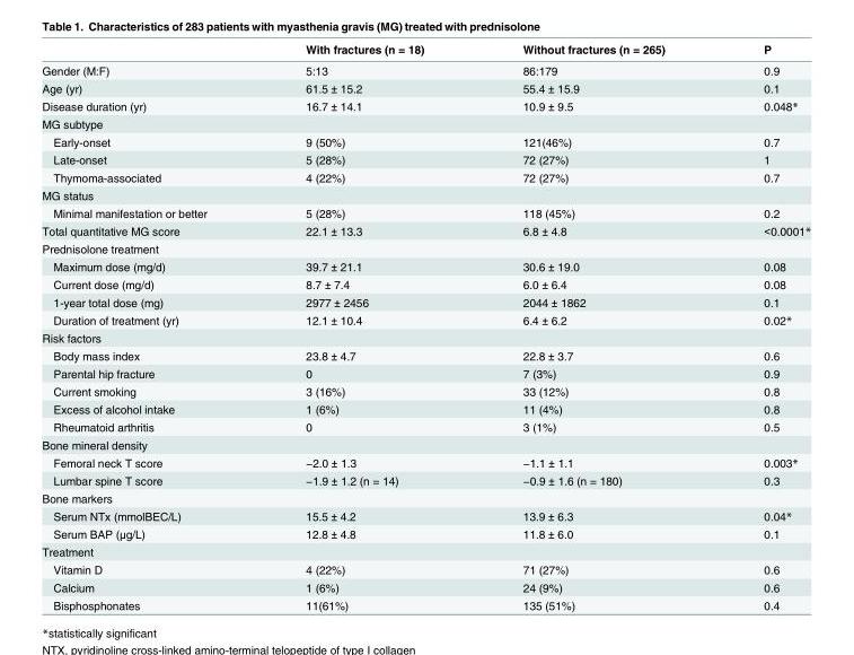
<table><thead><tr><td></td><td>With fractures (n = 18)</td><td>Without fractures (n = 265)</td><td>P</td></tr></thead><tbody><tr><td>Gender (M:F)</td><td>5:13</td><td>86:179</td><td>0.9</td></tr><tr><td>Age (yr)</td><td>61.5 ± 15.2</td><td>55.4 ± 15.9</td><td>0.1</td></tr><tr><td>Disease duration (yr)</td><td>16.7 ± 14.1</td><td>10.9 ± 9.5</td><td>0.048*</td></tr><tr><td colspan="4">MG subtype</td></tr><tr><td>Early-onset</td><td>9 (50%)</td><td>121(46%)</td><td>0.7</td></tr><tr><td>Late-onset</td><td>5 (28%)</td><td>72 (27%)</td><td>1</td></tr><tr><td>Thymoma-associated</td><td>4 (22%)</td><td>72 (27%)</td><td>0.7</td></tr><tr><td colspan="4">MG status</td></tr><tr><td>Minimal manifestation or better</td><td>5 (28%)</td><td>118 (45%)</td><td>0.2</td></tr><tr><td>Total quantitative MG score</td><td>22.1 ± 13.3</td><td>6.8 ± 4.8</td><td>&lt;0.0001*</td></tr><tr><td colspan="4">Prednisolone treatment</td></tr><tr><td>Maximum dose (mg/d)</td><td>39.7 ± 21.1</td><td>30.6 ± 19.0</td><td>0.08</td></tr><tr><td>Current dose (mg/d)</td><td>8.7 ± 7.4</td><td>6.0 ± 6.4</td><td>0.08</td></tr><tr><td>1-year total dose (mg)</td><td>2977 ± 2456</td><td>2044 ± 1862</td><td>0.1</td></tr><tr><td>Duration of treatment (yr)</td><td>12.1 ± 10.4</td><td>6.4 ± 6.2</td><td>0.02*</td></tr><tr><td colspan="4">Risk factors</td></tr><tr><td>Body mass index</td><td>23.8 ± 4.7</td><td>22.8 ± 3.7</td><td>0.6</td></tr><tr><td>Parental hip fracture</td><td>0</td><td>7 (3%)</td><td>0.9</td></tr><tr><td>Current smoking</td><td>3 (16%)</td><td>33 (12%)</td><td>0.8</td></tr><tr><td>Excess of alcohol intake</td><td>1 (6%)</td><td>11 (4%)</td><td>0.8</td></tr><tr><td>Rheumatoid arthritis</td><td>0</td><td>3 (1%)</td><td>0.5</td></tr><tr><td colspan="4">Bone mineral density</td></tr><tr><td>Femoral neck T score</td><td>−2.0 ± 1.3</td><td>−1.1 ± 1.1</td><td>0.003*</td></tr><tr><td>Lumbar spine T score</td><td>−1.9 ± 1.2 (n = 14)</td><td>−0.9 ± 1.6 (n = 180)</td><td>0.3</td></tr><tr><td colspan="4">Bone markers</td></tr><tr><td>Serum NTx (mmolBEC/L)</td><td>15.5 ± 4.2</td><td>13.9 ± 6.3</td><td>0.04*</td></tr><tr><td>Serum BAP (μg/L)</td><td>12.8 ± 4.8</td><td>11.8 ± 6.0</td><td>0.1</td></tr><tr><td colspan="4">Treatment</td></tr><tr><td>Vitamin D</td><td>4 (22%)</td><td>71 (27%)</td><td>0.6</td></tr><tr><td>Calcium</td><td>1 (6%)</td><td>24 (9%)</td><td>0.6</td></tr><tr><td>Bisphosphonates</td><td>11(61%)</td><td>135 (51%)</td><td>0.4</td></tr></tbody></table>